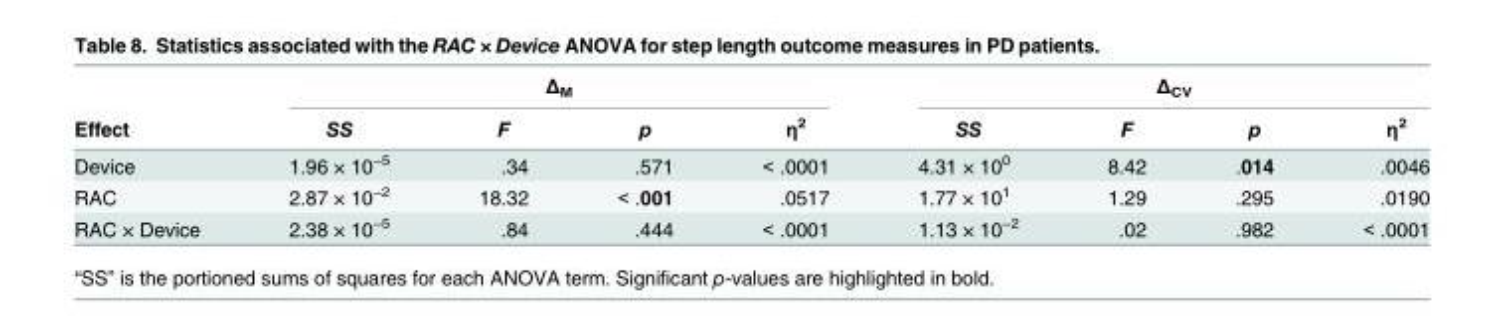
<table><thead><tr><td rowspan="2">Effect</td><td colspan="4">Δ<sub>M</sub></td><td colspan="4">Δ<sub>CV</sub></td></tr><tr><td>SS</td><td>F</td><td>p</td><td>η<sup>2</sup></td><td>SS</td><td>F</td><td>p</td><td>η<sup>2</sup></td></tr></thead><tbody><tr><td>Device</td><td>1.96 × 10<sup>−5</sup></td><td>.34</td><td>.571</td><td>&lt; .0001</td><td>4.31 × 10<sup>0</sup></td><td>8.42</td><td>.014</td><td>.0046</td></tr><tr><td>RAC</td><td>2.87 × 10<sup>−2</sup></td><td>18.32</td><td>&lt; .001</td><td>.0517</td><td>1.77 × 10<sup>1</sup></td><td>1.29</td><td>.295</td><td>.0190</td></tr><tr><td>RAC × Device</td><td>2.38 × 10<sup>−5</sup></td><td>.84</td><td>.444</td><td>&lt; .0001</td><td>1.13 × 10<sup>−2</sup></td><td>.02</td><td>.982</td><td>&lt; .0001</td></tr></tbody></table>